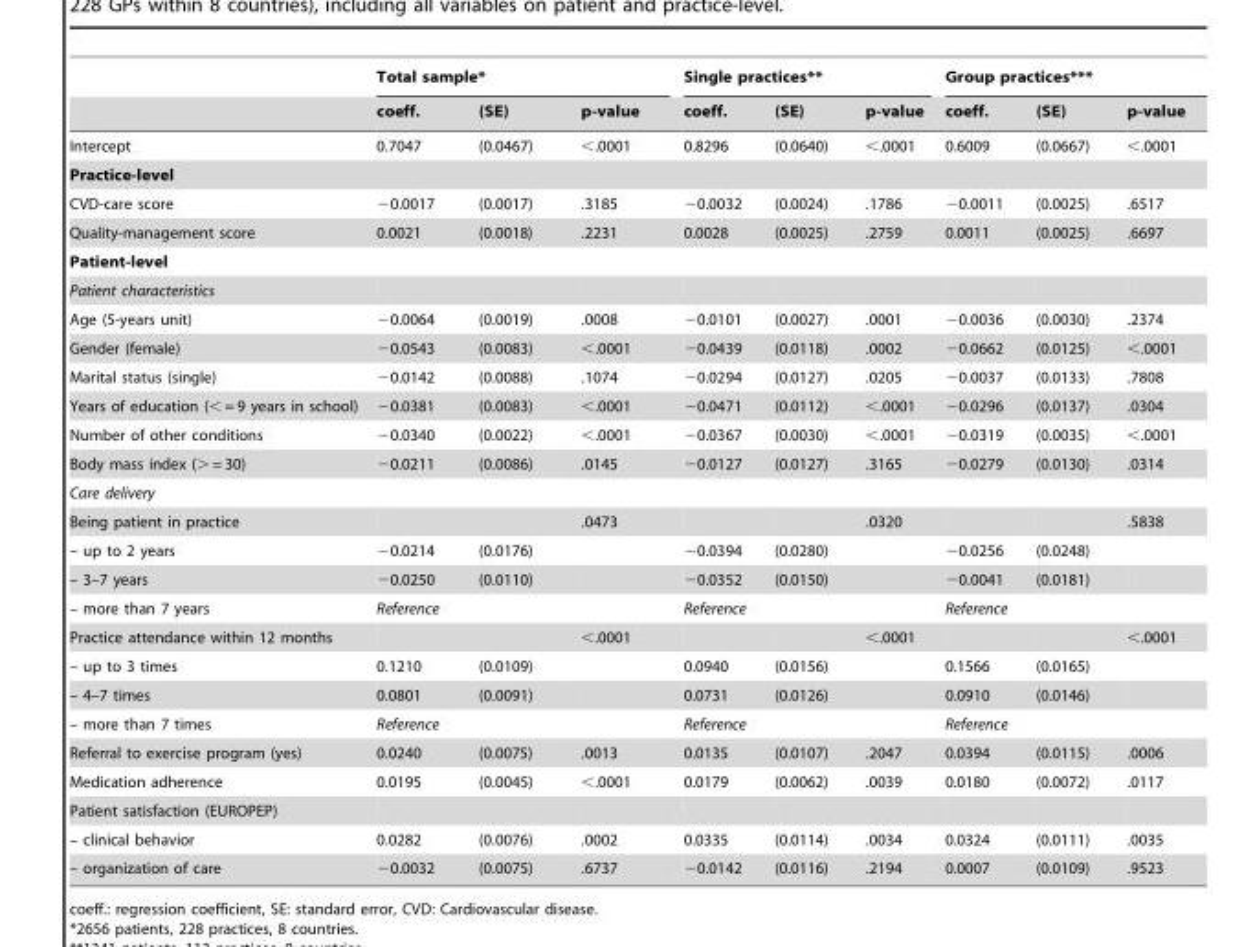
<table><thead><tr><td rowspan="2"></td><td colspan="3">Total sample*</td><td colspan="3">Single practices**</td><td colspan="3">Group practices***</td></tr><tr><td>coeff.</td><td>(SE)</td><td>p-value</td><td>coeff.</td><td>(SE)</td><td>p-value</td><td>coeff.</td><td>(SE)</td><td>p-value</td></tr></thead><tbody><tr><td>Intercept</td><td>0.7047</td><td>(0.0467)</td><td>&lt;.0001</td><td>0.8296</td><td>(0.0640)</td><td>&lt;.0001</td><td>0.6009</td><td>(0.0667)</td><td>&lt;.0001</td></tr><tr><td colspan="10">Practice-level</td></tr><tr><td>CVD-care score</td><td>−0.0017</td><td>(0.0017)</td><td>.3185</td><td>−0.0032</td><td>(0.0024)</td><td>.1786</td><td>−0.0011</td><td>(0.0025)</td><td>.6517</td></tr><tr><td>Quality-management score</td><td>0.0021</td><td>(0.0018)</td><td>.2231</td><td>0.0028</td><td>(0.0025)</td><td>.2759</td><td>0.0011</td><td>(0.0025)</td><td>.6697</td></tr><tr><td colspan="10">Patient-level</td></tr><tr><td colspan="10">Patient characteristics</td></tr><tr><td>Age (5-years unit)</td><td>−0.0064</td><td>(0.0019)</td><td>.0008</td><td>−0.0101</td><td>(0.0027)</td><td>.0001</td><td>−0.0036</td><td>(0.0030)</td><td>.2374</td></tr><tr><td>Gender (female)</td><td>−0.0543</td><td>(0.0083)</td><td>&lt;.0001</td><td>−0.0439</td><td>(0.0118)</td><td>.0002</td><td>−0.0662</td><td>(0.0125)</td><td>&lt;.0001</td></tr><tr><td>Marital status (single)</td><td>−0.0142</td><td>(0.0088)</td><td>.1074</td><td>−0.0294</td><td>(0.0127)</td><td>.0205</td><td>−0.0037</td><td>(0.0133)</td><td>.7808</td></tr><tr><td>Years of education (&lt; = 9 years in school)</td><td>−0.0381</td><td>(0.0083)</td><td>&lt;.0001</td><td>−0.0471</td><td>(0.0112)</td><td>&lt;.0001</td><td>−0.0296</td><td>(0.0137)</td><td>.0304</td></tr><tr><td>Number of other conditions</td><td>−0.0340</td><td>(0.0022)</td><td>&lt;.0001</td><td>−0.0367</td><td>(0.0030)</td><td>&lt;.0001</td><td>−0.0319</td><td>(0.0035)</td><td>&lt;.0001</td></tr><tr><td>Body mass index (&gt; = 30)</td><td>−0.0211</td><td>(0.0086)</td><td>.0145</td><td>−0.0127</td><td>(0.0127)</td><td>.3165</td><td>−0.0279</td><td>(0.0130)</td><td>.0314</td></tr><tr><td colspan="10">Care delivery</td></tr><tr><td>Being patient in practice</td><td></td><td></td><td>.0473</td><td></td><td></td><td>.0320</td><td></td><td></td><td>.5838</td></tr><tr><td>– up to 2 years</td><td>−0.0214</td><td>(0.0176)</td><td></td><td>−0.0394</td><td>(0.0280)</td><td></td><td>−0.0256</td><td>(0.0248)</td><td></td></tr><tr><td>– 3–7 years</td><td>−0.0250</td><td>(0.0110)</td><td></td><td>−0.0352</td><td>(0.0150)</td><td></td><td>−0.0041</td><td>(0.0181)</td><td></td></tr><tr><td>– more than 7 years</td><td colspan="3">Reference</td><td colspan="3">Reference</td><td colspan="3">Reference</td></tr><tr><td>Practice attendance within 12 months</td><td></td><td></td><td>&lt;.0001</td><td></td><td></td><td>&lt;.0001</td><td></td><td></td><td>&lt;.0001</td></tr><tr><td>– up to 3 times</td><td>0.1210</td><td>(0.0109)</td><td></td><td>0.0940</td><td>(0.0156)</td><td></td><td>0.1566</td><td>(0.0165)</td><td></td></tr><tr><td>– 4–7 times</td><td>0.0801</td><td>(0.0091)</td><td></td><td>0.0731</td><td>(0.0126)</td><td></td><td>0.0910</td><td>(0.0146)</td><td></td></tr><tr><td>– more than 7 times</td><td colspan="3">Reference</td><td colspan="3">Reference</td><td colspan="3">Reference</td></tr><tr><td>Referral to exercise program (yes)</td><td>0.0240</td><td>(0.0075)</td><td>.0013</td><td>0.0135</td><td>(0.0107)</td><td>.2047</td><td>0.0394</td><td>(0.0115)</td><td>.0006</td></tr><tr><td>Medication adherence</td><td>0.0195</td><td>(0.0045)</td><td>&lt;.0001</td><td>0.0179</td><td>(0.0062)</td><td>.0039</td><td>0.0180</td><td>(0.0072)</td><td>.0117</td></tr><tr><td colspan="10">Patient satisfaction (EUROPEP)</td></tr><tr><td>– clinical behavior</td><td>0.0282</td><td>(0.0076)</td><td>.0002</td><td>0.0335</td><td>(0.0114)</td><td>.0034</td><td>0.0324</td><td>(0.0111)</td><td>.0035</td></tr><tr><td>– organization of care</td><td>−0.0032</td><td>(0.0075)</td><td>.6737</td><td>−0.0142</td><td>(0.0116)</td><td>.2194</td><td>0.0007</td><td>(0.0109)</td><td>.9523</td></tr></tbody></table>